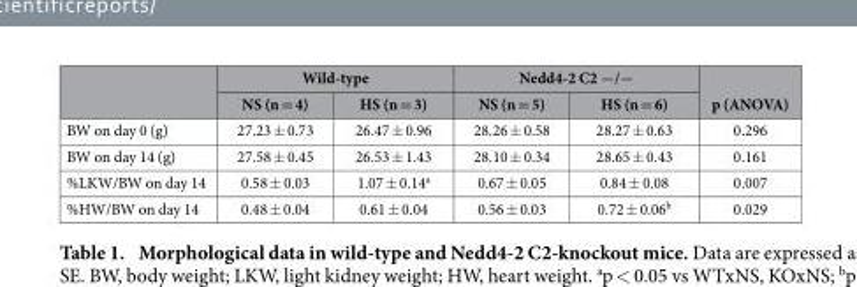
<table><thead><tr><td rowspan="2"></td><td colspan="2">Wild-type</td><td colspan="2">Nedd4-2 C2 −/−</td><td rowspan="2">p (ANOVA)</td></tr><tr><td>NS (n = 4)</td><td>HS (n = 3)</td><td>NS (n = 5)</td><td>HS (n = 6)</td></tr></thead><tbody><tr><td>BW on day 0 (g)</td><td>27.23 ± 0.73</td><td>26.47 ± 0.96</td><td>28.26 ± 0.58</td><td>28.27 ± 0.63</td><td>0.296</td></tr><tr><td>BW on day 14 (g)</td><td>27.58 ± 0.45</td><td>26.53 ± 1.43</td><td>28.10 ± 0.34</td><td>28.65 ± 0.43</td><td>0.161</td></tr><tr><td>%LKW/BW on day 14</td><td>0.58 ± 0.03</td><td>1.07 ± 0.14<sup>a</sup></td><td>0.67 ± 0.05</td><td>0.84 ± 0.08</td><td>0.007</td></tr><tr><td>%HW/BW on day 14</td><td>0.48 ± 0.04</td><td>0.61 ± 0.04</td><td>0.56 ± 0.03</td><td>0.72 ± 0.06<sup>b</sup></td><td>0.029</td></tr></tbody></table>